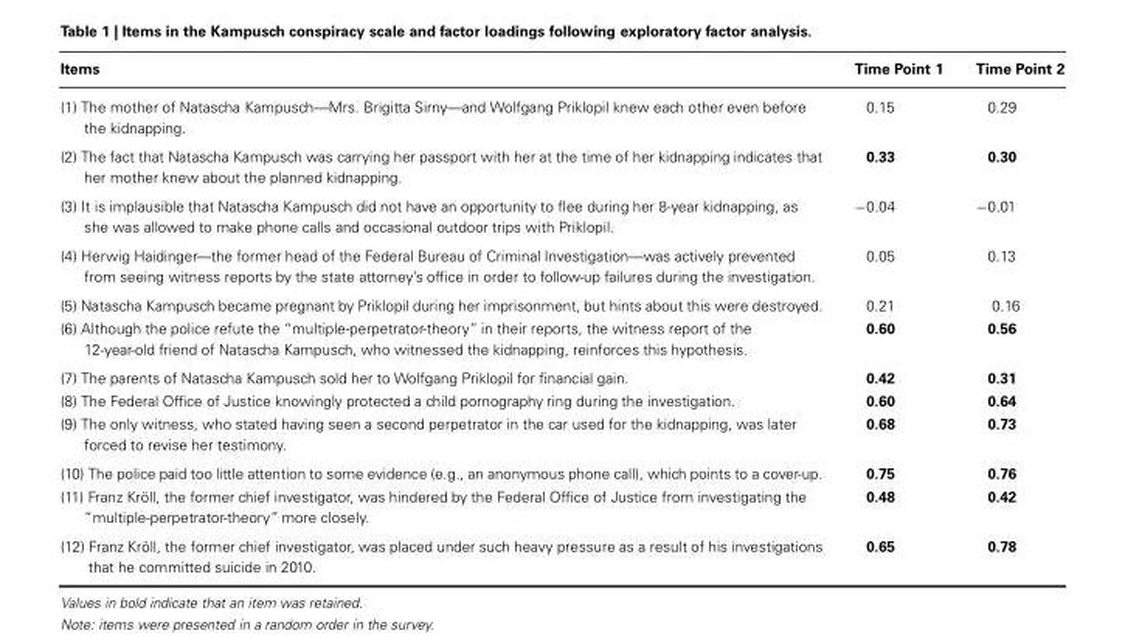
<table><thead><tr><td>Items</td><td>Time Point 1</td><td>Time Point 2</td></tr></thead><tbody><tr><td>(1) The mother of Natascha Kampusch—Mrs. Brigitta Sirny—and Wolfgang Priklopil knew each other even before the kidnapping.</td><td>0.15</td><td>0.29</td></tr><tr><td>(2) The fact that Natascha Kampusch was carrying her passport with her at the time of her kidnapping indicates that her mother knew about the planned kidnapping.</td><td>0.33</td><td>0.30</td></tr><tr><td>(3) It is implausible that Natascha Kampusch did not have an opportunity to flee during her 8-year kidnapping, as she was allowed to make phone calls and occasional outdoor trips with Priklopil.</td><td>−0.04</td><td>−0.01</td></tr><tr><td>(4) Herwig Haidinger—the former head of the Federal Bureau of Criminal Investigation—was actively prevented from seeing witness reports by the state attorney’s office in order to follow-up failures during the investigation.</td><td>0.05</td><td>0.13</td></tr><tr><td>(5) Natascha Kampusch became pregnant by Priklopil during her imprisonment, but hints about this were destroyed.</td><td>0.21</td><td>0.16</td></tr><tr><td>(6) Although the police refute the “multiple-perpetrator-theory” in their reports, the witness report of the 12-year-old friend of Natascha Kampusch, who witnessed the kidnapping, reinforces this hypothesis.</td><td>0.60</td><td>0.56</td></tr><tr><td>(7) The parents of Natascha Kampusch sold her to Wolfgang Priklopil for financial gain.</td><td>0.42</td><td>0.31</td></tr><tr><td>(8) The Federal Office of Justice knowingly protected a child pornography ring during the investigation.</td><td>0.60</td><td>0.64</td></tr><tr><td>(9) The only witness, who stated having seen a second perpetrator in the car used for the kidnapping, was later forced to revise her testimony.</td><td>0.68</td><td>0.73</td></tr><tr><td>(10) The police paid too little attention to some evidence (e.g., an anonymous phone call), which points to a cover-up.</td><td>0.75</td><td>0.76</td></tr><tr><td>(11) Franz Kröll, the former chief investigator, was hindered by the Federal Office of Justice from investigating the “multiple-perpetrator-theory” more closely.</td><td>0.48</td><td>0.42</td></tr><tr><td>(12) Franz Kröll, the former chief investigator, was placed under such heavy pressure as a result of his investigations that he committed suicide in 2010.</td><td>0.65</td><td>0.78</td></tr></tbody></table>